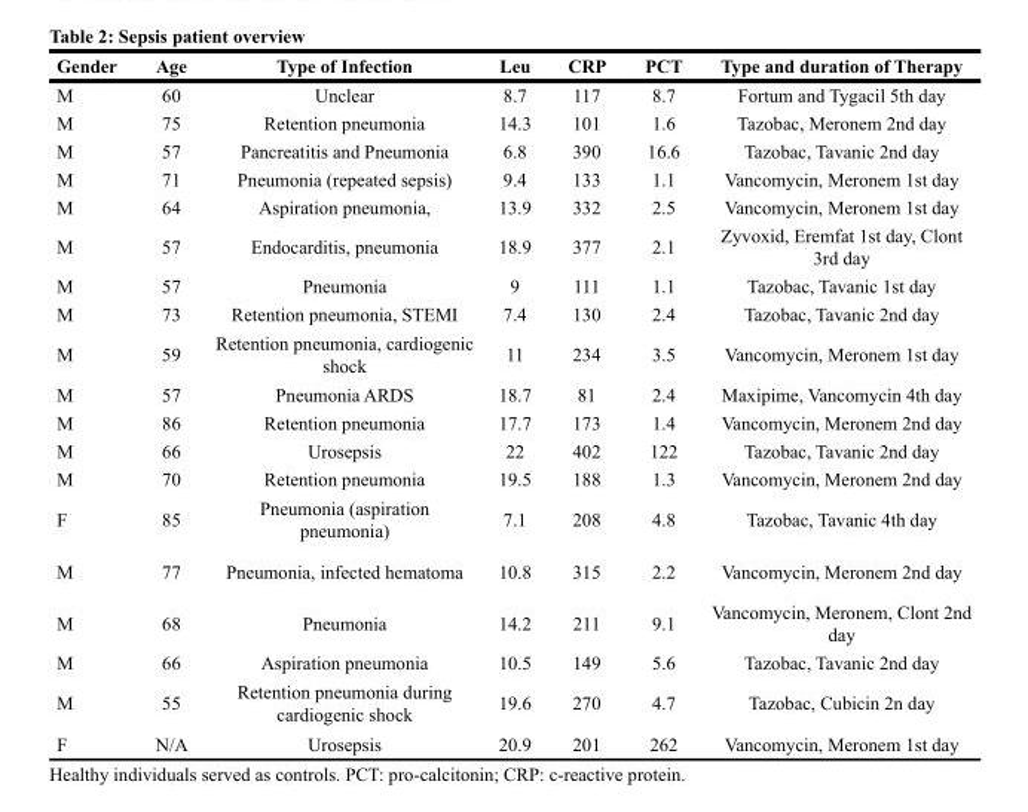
<table><thead><tr><td>Gender</td><td>Age</td><td>Type of Infection</td><td>Leu</td><td>CRP</td><td>PCT</td><td>Type and duration of Therapy</td></tr></thead><tbody><tr><td>M</td><td>60</td><td>Unclear</td><td>8.7</td><td>117</td><td>8.7</td><td>Fortum and Tygacil 5th day</td></tr><tr><td>M</td><td>75</td><td>Retention pneumonia</td><td>14.3</td><td>101</td><td>1.6</td><td>Tazobac, Meronem 2nd day</td></tr><tr><td>M</td><td>57</td><td>Pancreatitis and Pneumonia</td><td>6.8</td><td>390</td><td>16.6</td><td>Tazobac, Tavanic 2nd day</td></tr><tr><td>M</td><td>71</td><td>Pneumonia (repeated sepsis)</td><td>9.4</td><td>133</td><td>1.1</td><td>Vancomycin, Meronem 1st day</td></tr><tr><td>M</td><td>64</td><td>Aspiration pneumonia,</td><td>13.9</td><td>332</td><td>2.5</td><td>Vancomycin, Meronem 1st day</td></tr><tr><td>M</td><td>57</td><td>Endocarditis, pneumonia</td><td>18.9</td><td>377</td><td>2.1</td><td>Zyvoxid, Eremfat 1st day, Clont 3rd day</td></tr><tr><td>M</td><td>57</td><td>Pneumonia</td><td>9</td><td>111</td><td>1.1</td><td>Tazobac, Tavanic 1st day</td></tr><tr><td>M</td><td>73</td><td>Retention pneumonia, STEMI</td><td>7.4</td><td>130</td><td>2.4</td><td>Tazobac, Tavanic 2nd day</td></tr><tr><td>M</td><td>59</td><td>Retention pneumonia, cardiogenic shock</td><td>11</td><td>234</td><td>3.5</td><td>Vancomycin, Meronem 1st day</td></tr><tr><td>M</td><td>57</td><td>Pneumonia ARDS</td><td>18.7</td><td>81</td><td>2.4</td><td>Maxipime, Vancomycin 4th day</td></tr><tr><td>M</td><td>86</td><td>Retention pneumonia</td><td>17.7</td><td>173</td><td>1.4</td><td>Vancomycin, Meronem 2nd day</td></tr><tr><td>M</td><td>66</td><td>Urosepsis</td><td>22</td><td>402</td><td>122</td><td>Tazobac, Tavanic 2nd day</td></tr><tr><td>M</td><td>70</td><td>Retention pneumonia</td><td>19.5</td><td>188</td><td>1.3</td><td>Vancomycin, Meronem 2nd day</td></tr><tr><td>F</td><td>85</td><td>Pneumonia (aspiration pneumonia)</td><td>7.1</td><td>208</td><td>4.8</td><td>Tazobac, Tavanic 4th day</td></tr><tr><td>M</td><td>77</td><td>Pneumonia, infected hematoma</td><td>10.8</td><td>315</td><td>2.2</td><td>Vancomycin, Meronem 2nd day</td></tr><tr><td>M</td><td>68</td><td>Pneumonia</td><td>14.2</td><td>211</td><td>9.1</td><td>Vancomycin, Meronem, Clont 2nd day</td></tr><tr><td>M</td><td>66</td><td>Aspiration pneumonia</td><td>10.5</td><td>149</td><td>5.6</td><td>Tazobac, Tavanic 2nd day</td></tr><tr><td>M</td><td>55</td><td>Retention pneumonia during cardiogenic shock</td><td>19.6</td><td>270</td><td>4.7</td><td>Tazobac, Cubicin 2n day</td></tr><tr><td>F</td><td>N/A</td><td>Urosepsis</td><td>20.9</td><td>201</td><td>262</td><td>Vancomycin, Meronem 1st day</td></tr></tbody></table>